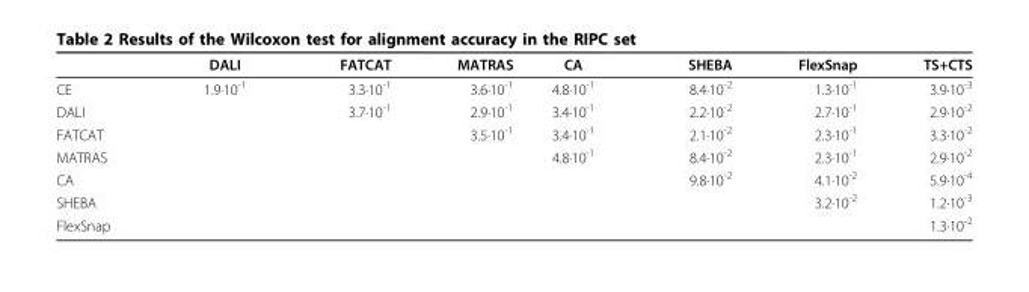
<table><thead><tr><td></td><td>DALI</td><td>FATCAT</td><td>MATRAS</td><td>CA</td><td>SHEBA</td><td>FlexSnap</td><td>TS+CTS</td></tr></thead><tbody><tr><td>CE</td><td>1.9·10<sup>-1</sup></td><td>3.3·10<sup>-1</sup></td><td>3.6·10<sup>-1</sup></td><td>4.8·10<sup>-1</sup></td><td>8.4·10<sup>-2</sup></td><td>1.3·10<sup>-1</sup></td><td>3.9·10<sup>-3</sup></td></tr><tr><td>DALI</td><td></td><td>3.7·10<sup>-1</sup></td><td>2.9·10<sup>-1</sup></td><td>3.4·10<sup>-1</sup></td><td>2.2·10<sup>-2</sup></td><td>2.7·10<sup>-1</sup></td><td>2.9·10<sup>-2</sup></td></tr><tr><td>FATCAT</td><td></td><td></td><td>3.5·10<sup>-1</sup></td><td>3.4·10<sup>-1</sup></td><td>2.1·10<sup>-2</sup></td><td>2.3·10<sup>-1</sup></td><td>3.3·10<sup>-2</sup></td></tr><tr><td>MATRAS</td><td></td><td></td><td></td><td>4.8·10<sup>-1</sup></td><td>8.4·10<sup>-2</sup></td><td>2.3·10<sup>-1</sup></td><td>2.9·10<sup>-2</sup></td></tr><tr><td>CA</td><td></td><td></td><td></td><td></td><td>9.8·10<sup>-2</sup></td><td>4.1·10<sup>-2</sup></td><td>5.9·10<sup>-4</sup></td></tr><tr><td>SHEBA</td><td></td><td></td><td></td><td></td><td></td><td>3.2·10<sup>-2</sup></td><td>1.2·10<sup>-3</sup></td></tr><tr><td>FlexSnap</td><td></td><td></td><td></td><td></td><td></td><td></td><td>1.3·10<sup>-2</sup></td></tr></tbody></table>